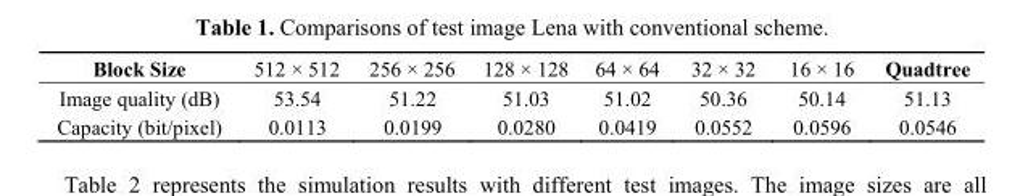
<table><thead><tr><td>Block Size</td><td>512 × 512</td><td>256 × 256</td><td>128 × 128</td><td>64 × 64</td><td>32 × 32</td><td>16 × 16</td><td>Quadtree</td></tr></thead><tbody><tr><td>Image quality (dB)</td><td>53.54</td><td>51.22</td><td>51.03</td><td>51.02</td><td>50.36</td><td>50.14</td><td>51.13</td></tr><tr><td>Capacity (bit/pixel)</td><td>0.0113</td><td>0.0199</td><td>0.0280</td><td>0.0419</td><td>0.0552</td><td>0.0596</td><td>0.0546</td></tr></tbody></table>